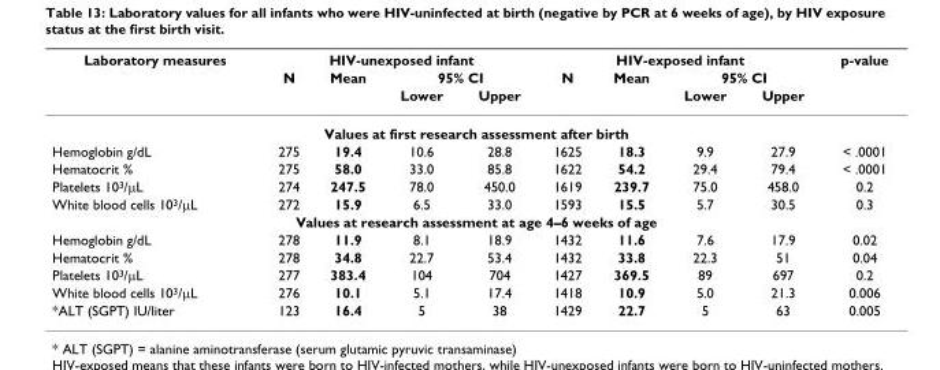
<table><thead><tr><td rowspan="3">Laboratory measures</td><td colspan="4">HIV-unexposed infant</td><td colspan="4">HIV-exposed infant</td><td rowspan="3">p-value</td></tr><tr><td rowspan="2">N</td><td rowspan="2">Mean</td><td colspan="2">95% CI</td><td rowspan="2">N</td><td rowspan="2">Mean</td><td colspan="2">95% CI</td></tr><tr><td>Lower</td><td>Upper</td><td>Lower</td><td>Upper</td></tr></thead><tbody><tr><td colspan="10">Values at first research assessment after birth</td></tr><tr><td>Hemoglobin g/dL</td><td>275</td><td>19.4</td><td>10.6</td><td>28.8</td><td>1625</td><td>18.3</td><td>9.9</td><td>27.9</td><td>&lt; .0001</td></tr><tr><td>Hematocrit %</td><td>275</td><td>58.0</td><td>33.0</td><td>85.8</td><td>1622</td><td>54.2</td><td>29.4</td><td>79.4</td><td>&lt; .0001</td></tr><tr><td>Platelets 10<sup>3</sup>/μL</td><td>274</td><td>247.5</td><td>78.0</td><td>450.0</td><td>1619</td><td>239.7</td><td>75.0</td><td>458.0</td><td>0.2</td></tr><tr><td>White blood cells 10<sup>3</sup>/μL</td><td>272</td><td>15.9</td><td>6.5</td><td>33.0</td><td>1593</td><td>15.5</td><td>5.7</td><td>30.5</td><td>0.3</td></tr><tr><td colspan="10">Values at research assessment at age 4–6 weeks of age</td></tr><tr><td>Hemoglobin g/dL</td><td>278</td><td>11.9</td><td>8.1</td><td>18.9</td><td>1432</td><td>11.6</td><td>7.6</td><td>17.9</td><td>0.02</td></tr><tr><td>Hematocrit %</td><td>278</td><td>34.8</td><td>22.7</td><td>53.4</td><td>1432</td><td>33.8</td><td>22.3</td><td>51</td><td>0.04</td></tr><tr><td>Platelets 10<sup>3</sup>/μL</td><td>277</td><td>383.4</td><td>104</td><td>704</td><td>1427</td><td>369.5</td><td>89</td><td>697</td><td>0.2</td></tr><tr><td>White blood cells 10<sup>3</sup>/μL</td><td>276</td><td>10.1</td><td>5.1</td><td>17.4</td><td>1418</td><td>10.9</td><td>5.0</td><td>21.3</td><td>0.006</td></tr><tr><td>*ALT (SGPT) IU/liter</td><td>123</td><td>16.4</td><td>5</td><td>38</td><td>1429</td><td>22.7</td><td>5</td><td>63</td><td>0.005</td></tr></tbody></table>